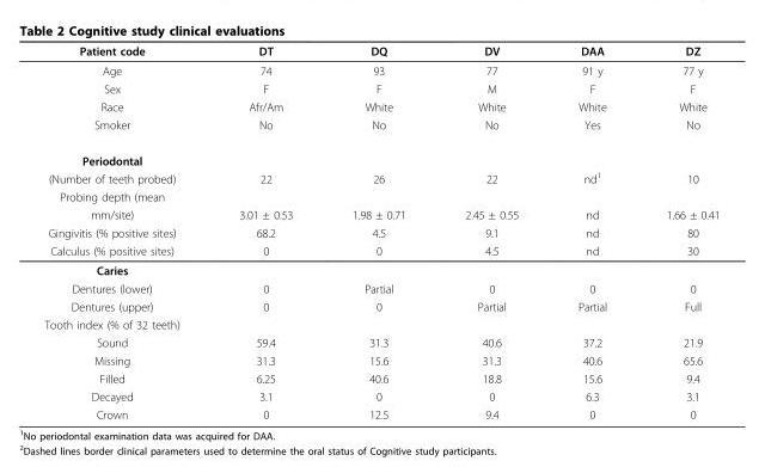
<table><thead><tr><td>Patient code</td><td>DT</td><td>DQ</td><td>DV</td><td>DAA</td><td>DZ</td></tr></thead><tbody><tr><td>Age</td><td>74</td><td>93</td><td>77</td><td>91 y</td><td>77 y</td></tr><tr><td>Sex</td><td>F</td><td>F</td><td>M</td><td>F</td><td>F</td></tr><tr><td>Race</td><td>Afr/Am</td><td>White</td><td>White</td><td>White</td><td>White</td></tr><tr><td>Smoker</td><td>No</td><td>No</td><td>No</td><td>Yes</td><td>No</td></tr><tr><td colspan="6">Periodontal</td></tr><tr><td>(Number of teeth probed)</td><td>22</td><td>26</td><td>22</td><td>nd<sup>1</sup></td><td>10</td></tr><tr><td colspan="6">Probing depth (mean</td></tr><tr><td>mm/site)</td><td>3.01 ± 0.53</td><td>1.98 ± 0.71</td><td>2.45 ± 0.55</td><td>nd</td><td>1.66 ± 0.41</td></tr><tr><td>Gingivitis (% positive sites)</td><td>68.2</td><td>4.5</td><td>9.1</td><td>nd</td><td>80</td></tr><tr><td>Calculus (% positive sites)</td><td>0</td><td>0</td><td>4.5</td><td>nd</td><td>30</td></tr><tr><td colspan="6">Caries</td></tr><tr><td>Dentures (lower)</td><td>0</td><td>Partial</td><td>0</td><td>0</td><td>0</td></tr><tr><td>Dentures (upper)</td><td>0</td><td>0</td><td>Partial</td><td>Partial</td><td>Full</td></tr><tr><td colspan="6">Tooth index (% of 32 teeth)</td></tr><tr><td>Sound</td><td>59.4</td><td>31.3</td><td>40.6</td><td>37.2</td><td>21.9</td></tr><tr><td>Missing</td><td>31.3</td><td>15.6</td><td>31.3</td><td>40.6</td><td>65.6</td></tr><tr><td>Filled</td><td>6.25</td><td>40.6</td><td>18.8</td><td>15.6</td><td>9.4</td></tr><tr><td>Decayed</td><td>3.1</td><td>0</td><td>0</td><td>6.3</td><td>3.1</td></tr><tr><td>Crown</td><td>0</td><td>12.5</td><td>9.4</td><td>0</td><td>0</td></tr></tbody></table>